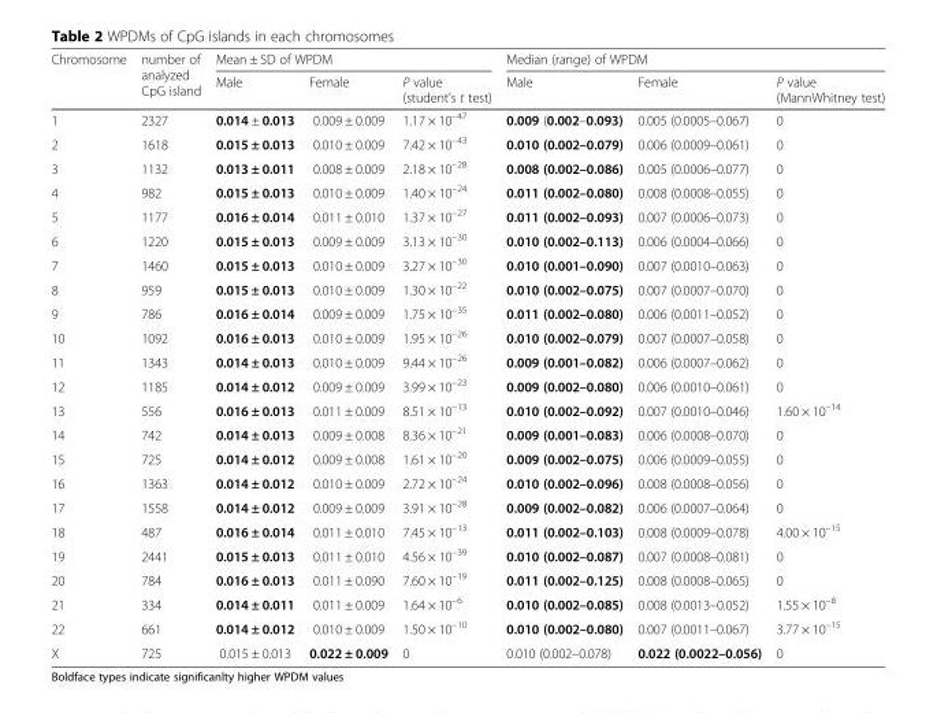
<table><thead><tr><td rowspan="2">Chromosome</td><td rowspan="2">number of analyzed CpG island</td><td colspan="3">Mean ± SD of WPDM</td><td colspan="3">Median (range) of WPDM</td></tr><tr><td>Male</td><td>Female</td><td>P value (student&#x27;s t test)</td><td>Male</td><td>Female</td><td>P value (MannWhitney test)</td></tr></thead><tbody><tr><td>1</td><td>2327</td><td>0.014 ± 0.013</td><td>0.009 ± 0.009</td><td>1.17 × 10<sup>–47</sup></td><td>0.009 (0.002–0.093)</td><td>0.005 (0.0005–0.067)</td><td>0</td></tr><tr><td>2</td><td>1618</td><td>0.015 ± 0.013</td><td>0.010 ± 0.009</td><td>7.42 × 10<sup>–43</sup></td><td>0.010 (0.002–0.079)</td><td>0.006 (0.0009–0.061)</td><td>0</td></tr><tr><td>3</td><td>1132</td><td>0.013 ± 0.011</td><td>0.008 ± 0.009</td><td>2.18 × 10<sup>–28</sup></td><td>0.008 (0.002–0.086)</td><td>0.005 (0.0006–0.077)</td><td>0</td></tr><tr><td>4</td><td>982</td><td>0.015 ± 0.013</td><td>0.010 ± 0.009</td><td>1.40 × 10<sup>–24</sup></td><td>0.011 (0.002–0.080)</td><td>0.008 (0.0008–0.055)</td><td>0</td></tr><tr><td>5</td><td>1177</td><td>0.016 ± 0.014</td><td>0.011 ± 0.010</td><td>1.37 × 10<sup>–27</sup></td><td>0.011 (0.002–0.093)</td><td>0.007 (0.0006–0.073)</td><td>0</td></tr><tr><td>6</td><td>1220</td><td>0.015 ± 0.013</td><td>0.009 ± 0.009</td><td>3.13 × 10<sup>–30</sup></td><td>0.010 (0.002–0.113)</td><td>0.006 (0.0004–0.066)</td><td>0</td></tr><tr><td>7</td><td>1460</td><td>0.015 ± 0.013</td><td>0.010 ± 0.009</td><td>3.27 × 10<sup>–30</sup></td><td>0.010 (0.001–0.090)</td><td>0.007 (0.0010–0.063)</td><td>0</td></tr><tr><td>8</td><td>959</td><td>0.015 ± 0.013</td><td>0.010 ± 0.009</td><td>1.30 × 10<sup>–22</sup></td><td>0.010 (0.002–0.075)</td><td>0.007 (0.0007–0.070)</td><td>0</td></tr><tr><td>9</td><td>786</td><td>0.016 ± 0.014</td><td>0.009 ± 0.009</td><td>1.75 × 10<sup>–35</sup></td><td>0.011 (0.002–0.080)</td><td>0.006 (0.0011–0.052)</td><td>0</td></tr><tr><td>10</td><td>1092</td><td>0.016 ± 0.013</td><td>0.010 ± 0.009</td><td>1.95 × 10<sup>–26</sup></td><td>0.010 (0.002–0.079)</td><td>0.007 (0.0007–0.058)</td><td>0</td></tr><tr><td>11</td><td>1343</td><td>0.014 ± 0.013</td><td>0.010 ± 0.009</td><td>9.44 × 10<sup>–26</sup></td><td>0.009 (0.001–0.082)</td><td>0.006 (0.0007–0.062)</td><td>0</td></tr><tr><td>12</td><td>1185</td><td>0.014 ± 0.012</td><td>0.009 ± 0.009</td><td>3.99 × 10<sup>–23</sup></td><td>0.009 (0.002–0.080)</td><td>0.006 (0.0010–0.061)</td><td>0</td></tr><tr><td>13</td><td>556</td><td>0.016 ± 0.013</td><td>0.011 ± 0.009</td><td>8.51 × 10<sup>–13</sup></td><td>0.010 (0.002–0.092)</td><td>0.007 (0.0010–0.046)</td><td>1.60 × 10<sup>–14</sup></td></tr><tr><td>14</td><td>742</td><td>0.014 ± 0.013</td><td>0.009 ± 0.008</td><td>8.36 × 10<sup>–21</sup></td><td>0.009 (0.001–0.083)</td><td>0.006 (0.0008–0.070)</td><td>0</td></tr><tr><td>15</td><td>725</td><td>0.014 ± 0.012</td><td>0.009 ± 0.008</td><td>1.61 × 10<sup>–20</sup></td><td>0.009 (0.002–0.075)</td><td>0.006 (0.0009–0.055)</td><td>0</td></tr><tr><td>16</td><td>1363</td><td>0.014 ± 0.012</td><td>0.010 ± 0.009</td><td>2.72 × 10<sup>–24</sup></td><td>0.010 (0.002–0.096)</td><td>0.008 (0.0008–0.056)</td><td>0</td></tr><tr><td>17</td><td>1558</td><td>0.014 ± 0.012</td><td>0.009 ± 0.009</td><td>3.91 × 10<sup>–28</sup></td><td>0.009 (0.002–0.082)</td><td>0.006 (0.0007–0.064)</td><td>0</td></tr><tr><td>18</td><td>487</td><td>0.016 ± 0.014</td><td>0.011 ± 0.010</td><td>7.45 × 10<sup>–13</sup></td><td>0.011 (0.002–0.103)</td><td>0.008 (0.0009–0.078)</td><td>4.00 × 10<sup>–15</sup></td></tr><tr><td>19</td><td>2441</td><td>0.015 ± 0.013</td><td>0.011 ± 0.010</td><td>4.56 × 10<sup>–39</sup></td><td>0.010 (0.002–0.087)</td><td>0.007 (0.0008–0.081)</td><td>0</td></tr><tr><td>20</td><td>784</td><td>0.016 ± 0.013</td><td>0.011 ± 0.090</td><td>7.60 × 10<sup>–19</sup></td><td>0.011 (0.002–0.125)</td><td>0.008 (0.0008–0.065)</td><td>0</td></tr><tr><td>21</td><td>334</td><td>0.014 ± 0.011</td><td>0.011 ± 0.009</td><td>1.64 × 10<sup>–6</sup></td><td>0.010 (0.002–0.085)</td><td>0.008 (0.0013–0.052)</td><td>1.55 × 10<sup>–8</sup></td></tr><tr><td>22</td><td>661</td><td>0.014 ± 0.012</td><td>0.010 ± 0.009</td><td>1.50 × 10<sup>–10</sup></td><td>0.010 (0.002–0.080)</td><td>0.007 (0.0011–0.067)</td><td>3.77 × 10<sup>–15</sup></td></tr><tr><td>X</td><td>725</td><td>0.015 ± 0.013</td><td>0.022 ± 0.009</td><td>0</td><td>0.010 (0.002–0.078)</td><td>0.022 (0.0022–0.056)</td><td>0</td></tr></tbody></table>